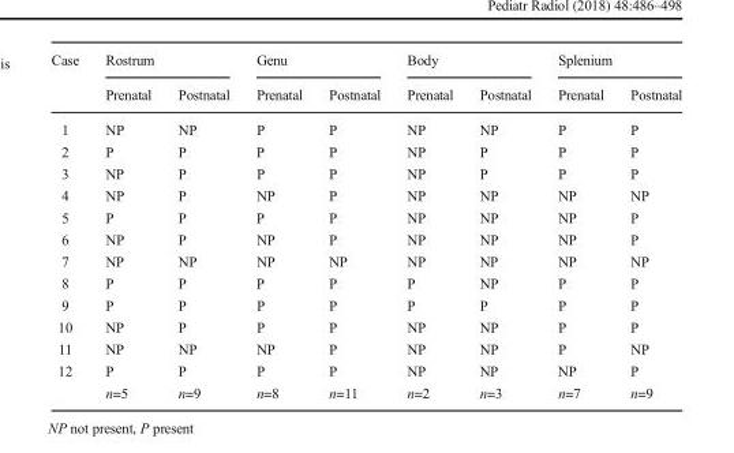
<table><thead><tr><td rowspan="2">Case</td><td colspan="2">Rostrum</td><td colspan="2">Genu</td><td colspan="2">Body</td><td colspan="2">Splenium</td></tr><tr><td>Prenatal</td><td>Postnatal</td><td>Prenatal</td><td>Postnatal</td><td>Prenatal</td><td>Postnatal</td><td>Prenatal</td><td>Postnatal</td></tr></thead><tbody><tr><td>1</td><td>NP</td><td>NP</td><td>P</td><td>P</td><td>NP</td><td>NP</td><td>P</td><td>P</td></tr><tr><td>2</td><td>P</td><td>P</td><td>P</td><td>P</td><td>NP</td><td>P</td><td>P</td><td>P</td></tr><tr><td>3</td><td>NP</td><td>P</td><td>P</td><td>P</td><td>NP</td><td>P</td><td>P</td><td>P</td></tr><tr><td>4</td><td>NP</td><td>P</td><td>NP</td><td>P</td><td>NP</td><td>NP</td><td>NP</td><td>NP</td></tr><tr><td>5</td><td>P</td><td>P</td><td>P</td><td>P</td><td>NP</td><td>NP</td><td>NP</td><td>P</td></tr><tr><td>6</td><td>NP</td><td>P</td><td>NP</td><td>P</td><td>NP</td><td>NP</td><td>NP</td><td>P</td></tr><tr><td>7</td><td>NP</td><td>NP</td><td>NP</td><td>NP</td><td>NP</td><td>NP</td><td>NP</td><td>NP</td></tr><tr><td>8</td><td>P</td><td>P</td><td>P</td><td>P</td><td>P</td><td>NP</td><td>P</td><td>P</td></tr><tr><td>9</td><td>P</td><td>P</td><td>P</td><td>P</td><td>P</td><td>P</td><td>P</td><td>P</td></tr><tr><td>10</td><td>NP</td><td>P</td><td>P</td><td>P</td><td>NP</td><td>NP</td><td>P</td><td>P</td></tr><tr><td>11</td><td>NP</td><td>NP</td><td>NP</td><td>P</td><td>NP</td><td>NP</td><td>P</td><td>NP</td></tr><tr><td rowspan="2">12</td><td>P</td><td>P</td><td>P</td><td>P</td><td>NP</td><td>NP</td><td>NP</td><td>P</td></tr><tr><td>n=5</td><td>n=9</td><td>n=8</td><td>n=11</td><td>n=2</td><td>n=3</td><td>n=7</td><td>n=9</td></tr></tbody></table>